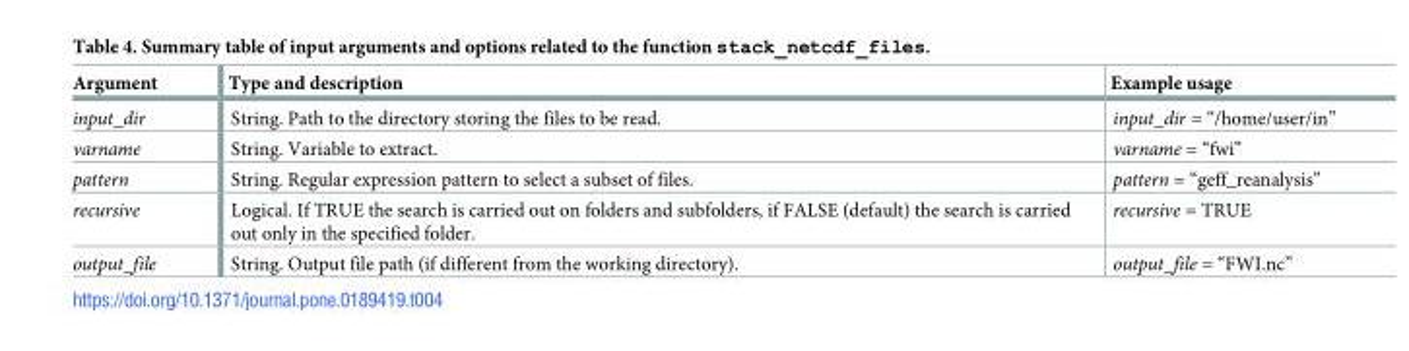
<table><thead><tr><td>Argument</td><td>Type and description</td><td>Example usage</td></tr></thead><tbody><tr><td>input_dir</td><td>String. Path to the directory storing the files to be read.</td><td>input_dir = “/home/user/in”</td></tr><tr><td>varname</td><td>String. Variable to extract.</td><td>varname = “fwi”</td></tr><tr><td>pattern</td><td>String. Regular expression pattern to select a subset of files.</td><td>pattern = “geff_reanalysis”</td></tr><tr><td>recursive</td><td>Logical. If TRUE the search is carried out on folders and subfolders, if FALSE (default) the search is carried out only in the specified folder.</td><td>recursive = TRUE</td></tr><tr><td>output_file</td><td>String. Output file path (if different from the working directory).</td><td>output_file = “FWI.nc”</td></tr></tbody></table>